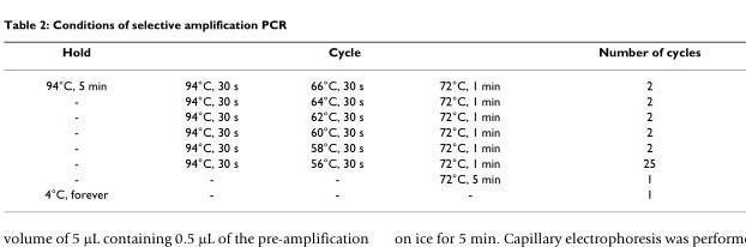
<table><thead><tr><td rowspan="2">Hold 94°C, 5 min</td><td colspan="3">Cycle</td><td rowspan="2">Number of cycles 2</td></tr><tr><td>94°C, 30 s</td><td>66°C, 30 s</td><td>72°C, 1 min</td></tr></thead><tbody><tr><td>-</td><td>94°C, 30 s</td><td>64°C, 30 s</td><td>72°C, 1 min</td><td>2</td></tr><tr><td>-</td><td>94°C, 30 s</td><td>62°C, 30 s</td><td>72°C, 1 min</td><td>2</td></tr><tr><td>-</td><td>94°C, 30 s</td><td>60°C, 30 s</td><td>72°C, 1 min</td><td>2</td></tr><tr><td>-</td><td>94°C, 30 s</td><td>58°C, 30 s</td><td>72°C, 1 min</td><td>2</td></tr><tr><td>-</td><td>94°C, 30 s</td><td>56°C, 30 s</td><td>72°C, 1 min</td><td>25</td></tr><tr><td>-</td><td>-</td><td>-</td><td>72°C, 5 min</td><td>1</td></tr><tr><td>4°C, forever</td><td>-</td><td>-</td><td>-</td><td>1</td></tr></tbody></table>